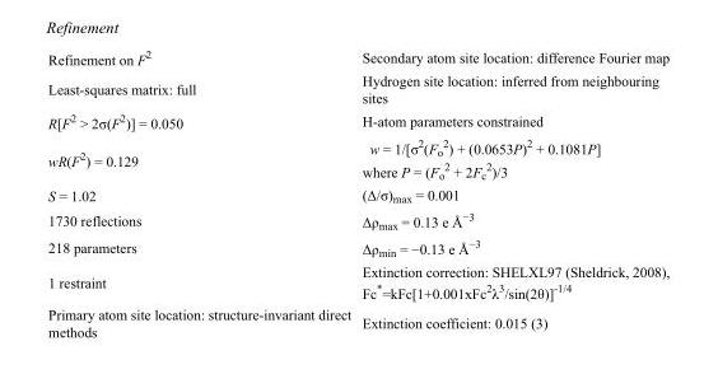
<table><tbody><tr><td>Refinement on F<sup>2</sup></td><td>Secondary atom site location: difference Fourier map</td></tr><tr><td>Least-squares matrix: full</td><td>Hydrogen site location: inferred from neighbouring sites</td></tr><tr><td>R[F<sup>2</sup> &gt; 2σ(F<sup>2</sup>)] = 0.050</td><td>H-atom parameters constrained</td></tr><tr><td>wR(F<sup>2</sup>) = 0.129</td><td>w = 1/[σ<sup>2</sup>(F<sub>o</sub> <sup>2</sup>) + (0.0653P)<sup>2</sup> + 0.1081P] where P = (F<sub>o</sub> <sup>2</sup> + 2F<sub>c</sub> <sup>2</sup>)/3</td></tr><tr><td>S = 1.02</td><td>(Δ/σ)<sub>max</sub> = 0.001</td></tr><tr><td>1730 reflections</td><td>Δρ<sub>max</sub> = 0.13 e Å<sup>−3</sup></td></tr><tr><td>218 parameters</td><td>Δρ<sub>min</sub> = −0.13 e Å<sup>−3</sup></td></tr><tr><td>1 restraint</td><td>Extinction correction: SHELXL97 (Sheldrick, 2008), Fc*=kFc[1+0.001xFc<sup>2</sup>λ<sup>3</sup>/sin(2θ)]<sup>-1/4</sup></td></tr><tr><td>Primary atom site location: structure-invariant direct methods</td><td>Extinction coefficient: 0.015 (3)</td></tr></tbody></table>